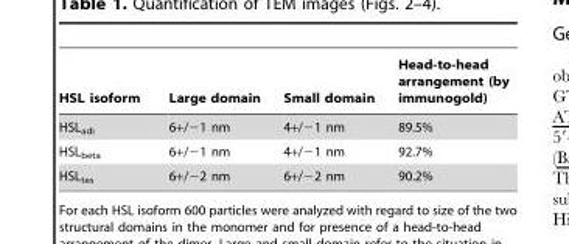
<table><thead><tr><td>HSL isoform</td><td>Large domain</td><td>Small domain</td><td>Head-to-head arrangement (by immunogold)</td></tr></thead><tbody><tr><td>HSL<sub>adi</sub></td><td>6+/−1 nm</td><td>4+/−1 nm</td><td>89.5%</td></tr><tr><td>HSL<sub>beta</sub></td><td>6+/−1 nm</td><td>4+/−1 nm</td><td>92.7%</td></tr><tr><td>HSL<sub>tes</sub></td><td>6+/−2 nm</td><td>6+/−2 nm</td><td>90.2%</td></tr></tbody></table>